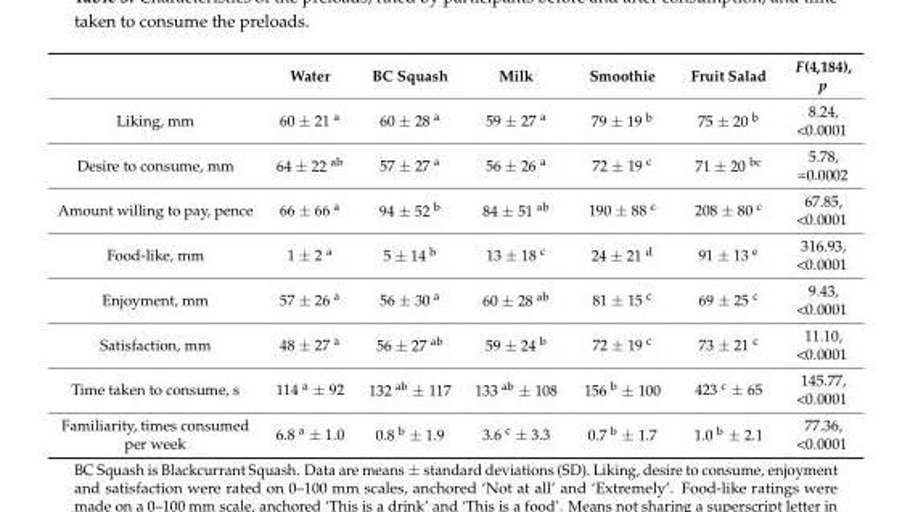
<table><thead><tr><td></td><td>Water</td><td>BC Squash</td><td>Milk</td><td>Smoothie</td><td>Fruit Salad</td><td>F(4,184), p</td></tr></thead><tbody><tr><td>Liking, mm</td><td>60 ± 21 <sup>a</sup></td><td>60 ± 28 <sup>a</sup></td><td>59 ± 27 <sup>a</sup></td><td>79 ± 19 <sup>b</sup></td><td>75 ± 20 <sup>b</sup></td><td>8.24, &lt;0.0001</td></tr><tr><td>Desire to consume, mm</td><td>64 ± 22 <sup>ab</sup></td><td>57 ± 27 <sup>a</sup></td><td>56 ± 26 <sup>a</sup></td><td>72 ± 19 <sup>c</sup></td><td>71 ± 20 <sup>bc</sup></td><td>5.78, =0.0002</td></tr><tr><td>Amount willing to pay, pence</td><td>66 ± 66 <sup>a</sup></td><td>94 ± 52 <sup>b</sup></td><td>84 ± 51 <sup>ab</sup></td><td>190 ± 88 <sup>c</sup></td><td>208 ± 80 <sup>c</sup></td><td>67.85, &lt;0.0001</td></tr><tr><td>Food-like, mm</td><td>1 ± 2 <sup>a</sup></td><td>5 ± 14 <sup>b</sup></td><td>13 ± 18 <sup>c</sup></td><td>24 ± 21 <sup>d</sup></td><td>91 ± 13 <sup>e</sup></td><td>316.93, &lt;0.0001</td></tr><tr><td>Enjoyment, mm</td><td>57 ± 26 <sup>a</sup></td><td>56 ± 30 <sup>a</sup></td><td>60 ± 28 <sup>ab</sup></td><td>81 ± 15 <sup>c</sup></td><td>69 ± 25 <sup>c</sup></td><td>9.43, &lt;0.0001</td></tr><tr><td>Satisfaction, mm</td><td>48 ± 27 <sup>a</sup></td><td>56 ± 27 <sup>ab</sup></td><td>59 ± 24 <sup>b</sup></td><td>72 ± 19 <sup>c</sup></td><td>73 ± 21 <sup>c</sup></td><td>11.10, &lt;0.0001</td></tr><tr><td>Time taken to consume, s</td><td>114 <sup>a</sup> ± 92</td><td>132 <sup>ab</sup> ± 117</td><td>133 <sup>ab</sup> ± 108</td><td>156 <sup>b</sup> ± 100</td><td>423 <sup>c</sup> ± 65</td><td>145.77, &lt;0.0001</td></tr><tr><td>Familiarity, times consumed per week</td><td>6.8 <sup>a</sup> ± 1.0</td><td>0.8 <sup>b</sup> ± 1.9</td><td>3.6 <sup>c</sup> ± 3.3</td><td>0.7 <sup>b</sup> ± 1.7</td><td>1.0 <sup>b</sup> ± 2.1</td><td>77.36, &lt;0.0001</td></tr></tbody></table>